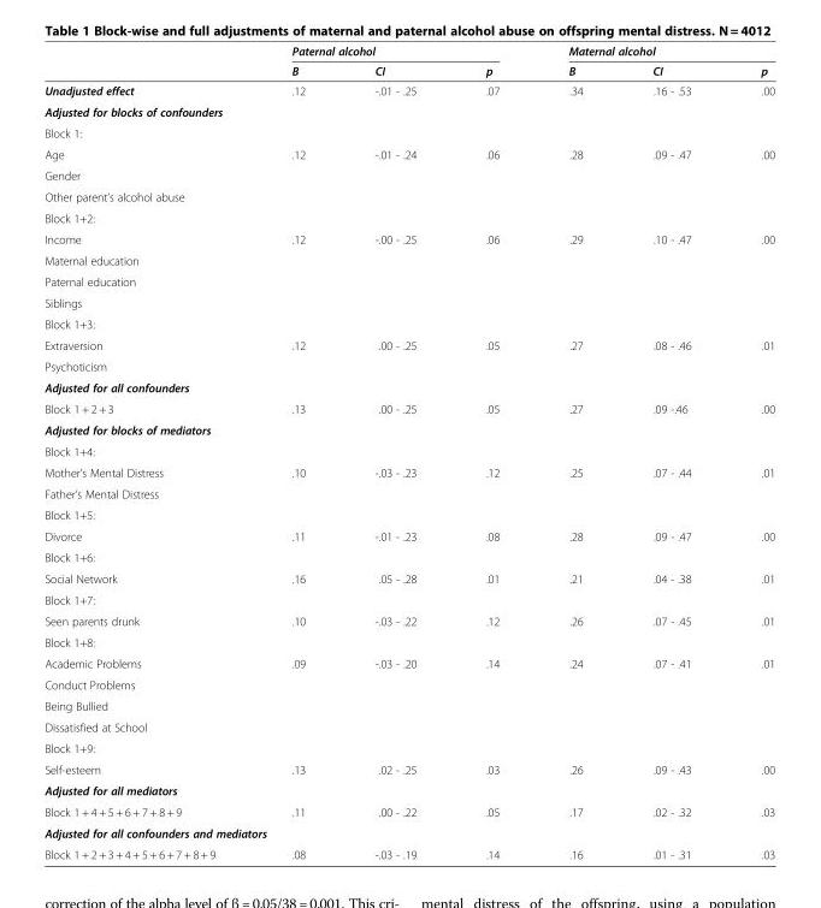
<table><thead><tr><td rowspan="2"></td><td colspan="3">Paternal alcohol</td><td colspan="3">Maternal alcohol</td></tr><tr><td>B</td><td>CI</td><td>p</td><td>B</td><td>CI</td><td>p</td></tr></thead><tbody><tr><td>Unadjusted effect</td><td>.12</td><td>-.01 - .25</td><td>.07</td><td>.34</td><td>.16 - .53</td><td>.00</td></tr><tr><td colspan="7">Adjusted for blocks of confounders</td></tr><tr><td colspan="7">Block 1:</td></tr><tr><td>Age</td><td>.12</td><td>-.01 - .24</td><td>.06</td><td>.28</td><td>.09 - .47</td><td>.00</td></tr><tr><td colspan="7">Gender</td></tr><tr><td colspan="7">Other parent’s alcohol abuse</td></tr><tr><td colspan="7">Block 1+2:</td></tr><tr><td>Income</td><td>.12</td><td>-.00 - .25</td><td>.06</td><td>.29</td><td>.10 - .47</td><td>.00</td></tr><tr><td colspan="7">Maternal education</td></tr><tr><td colspan="7">Paternal education</td></tr><tr><td colspan="7">Siblings</td></tr><tr><td colspan="7">Block 1+3:</td></tr><tr><td>Extraversion</td><td>.12</td><td>.00 - .25</td><td>.05</td><td>.27</td><td>.08 - .46</td><td>.01</td></tr><tr><td colspan="7">Psychoticism</td></tr><tr><td colspan="7">Adjusted for all confounders</td></tr><tr><td>Block 1 + 2 + 3</td><td>.13</td><td>.00 - .25</td><td>.05</td><td>.27</td><td>.09 -.46</td><td>.00</td></tr><tr><td colspan="7">Adjusted for blocks of mediators</td></tr><tr><td colspan="7">Block 1+4:</td></tr><tr><td>Mother’s Mental Distress</td><td>.10</td><td>-.03 - .23</td><td>.12</td><td>.25</td><td>.07 - .44</td><td>.01</td></tr><tr><td colspan="7">Father’s Mental Distress</td></tr><tr><td colspan="7">Block 1+5:</td></tr><tr><td>Divorce</td><td>.11</td><td>-.01 - .23</td><td>.08</td><td>.28</td><td>.09 - .47</td><td>.00</td></tr><tr><td colspan="7">Block 1+6:</td></tr><tr><td>Social Network</td><td>.16</td><td>.05 - .28</td><td>.01</td><td>.21</td><td>.04 - .38</td><td>.01</td></tr><tr><td colspan="7">Block 1+7:</td></tr><tr><td>Seen parents drunk</td><td>.10</td><td>-.03 - .22</td><td>.12</td><td>.26</td><td>.07 - .45</td><td>.01</td></tr><tr><td colspan="7">Block 1+8:</td></tr><tr><td>Academic Problems</td><td>.09</td><td>-.03 - .20</td><td>.14</td><td>.24</td><td>.07 - .41</td><td>.01</td></tr><tr><td colspan="7">Conduct Problems</td></tr><tr><td colspan="7">Being Bullied</td></tr><tr><td colspan="7">Dissatisfied at School</td></tr><tr><td colspan="7">Block 1+9:</td></tr><tr><td>Self-esteem</td><td>.13</td><td>.02 - .25</td><td>.03</td><td>.26</td><td>.09 - .43</td><td>.00</td></tr><tr><td colspan="7">Adjusted for all mediators</td></tr><tr><td>Block 1 + 4 + 5 + 6 + 7 + 8 + 9</td><td>.11</td><td>.00 - .22</td><td>.05</td><td>.17</td><td>.02 - .32</td><td>.03</td></tr><tr><td colspan="7">Adjusted for all confounders and mediators</td></tr><tr><td>Block 1 + 2 + 3 + 4 + 5 + 6 + 7 + 8 + 9</td><td>.08</td><td>-.03 - .19</td><td>.14</td><td>.16</td><td>.01 - .31</td><td>.03</td></tr></tbody></table>